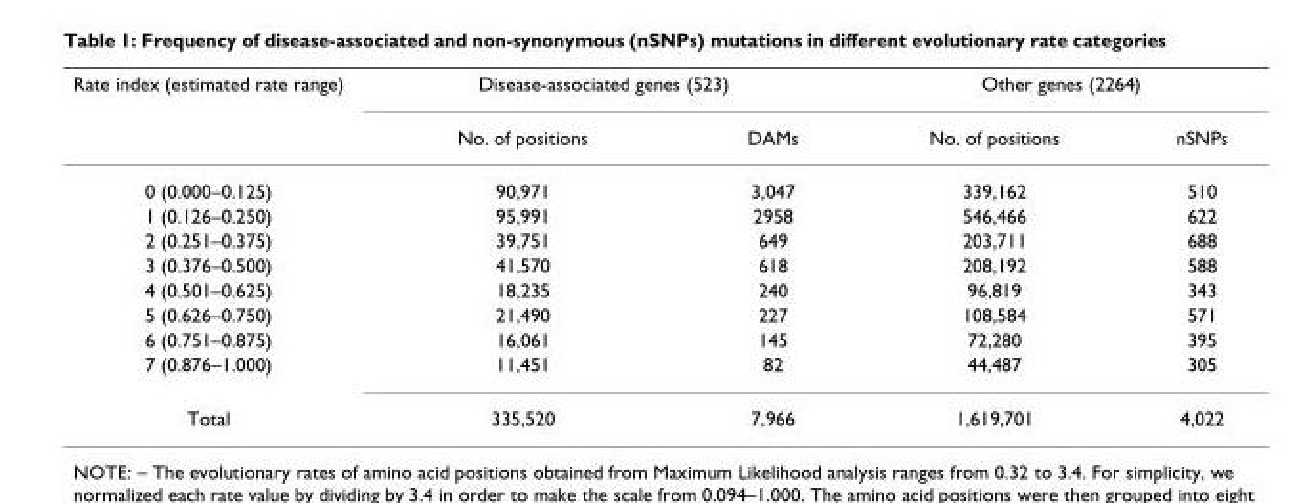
<table><thead><tr><td rowspan="2">Rate index (estimated rate range)</td><td colspan="2">Disease-associated genes (523)</td><td colspan="2">Other genes (2264)</td></tr><tr><td>No. of positions</td><td>DAMs</td><td>No. of positions</td><td>nSNPs</td></tr></thead><tbody><tr><td>0 (0.000–0.125)</td><td>90,971</td><td>3,047</td><td>339,162</td><td>510</td></tr><tr><td>1 (0.126–0.250)</td><td>95,991</td><td>2958</td><td>546,466</td><td>622</td></tr><tr><td>2 (0.251–0.375)</td><td>39,751</td><td>649</td><td>203,711</td><td>688</td></tr><tr><td>3 (0.376–0.500)</td><td>41,570</td><td>618</td><td>208,192</td><td>588</td></tr><tr><td>4 (0.501–0.625)</td><td>18,235</td><td>240</td><td>96,819</td><td>343</td></tr><tr><td>5 (0.626–0.750)</td><td>21,490</td><td>227</td><td>108,584</td><td>571</td></tr><tr><td>6 (0.751–0.875)</td><td>16,061</td><td>145</td><td>72,280</td><td>395</td></tr><tr><td>7 (0.876–1.000)</td><td>11,451</td><td>82</td><td>44,487</td><td>305</td></tr><tr><td>Total</td><td>335,520</td><td>7,966</td><td>1,619,701</td><td>4,022</td></tr></tbody></table>